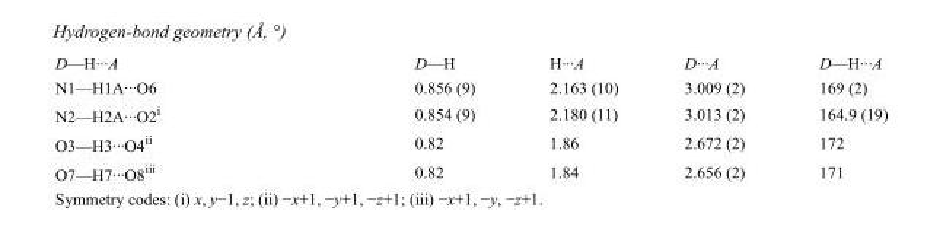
<table><tbody><tr><td>D—H···A</td><td>D—H</td><td>H···A</td><td>D···A</td><td>D—H···A</td></tr><tr><td>N1—H1A···O6</td><td>0.856 (9)</td><td>2.163 (10)</td><td>3.009 (2)</td><td>169 (2)</td></tr><tr><td>N2—H2A···O2<sup>i</sup></td><td>0.854 (9)</td><td>2.180 (11)</td><td>3.013 (2)</td><td>164.9 (19)</td></tr><tr><td>O3—H3···O4<sup>ii</sup></td><td>0.82</td><td>1.86</td><td>2.672 (2)</td><td>172</td></tr><tr><td>O7—H7···O8<sup>iii</sup></td><td>0.82</td><td>1.84</td><td>2.656 (2)</td><td>171</td></tr></tbody></table>